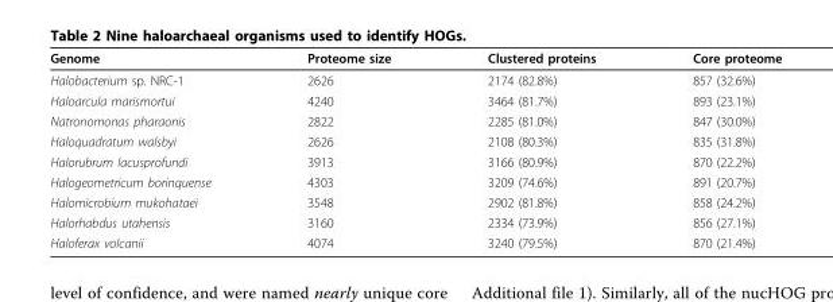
<table><thead><tr><td>Genome</td><td>Proteome size</td><td>Clustered proteins</td><td>Core proteome</td></tr></thead><tbody><tr><td>Halobacterium sp. NRC-1</td><td>2626</td><td>2174 (82.8%)</td><td>857 (32.6%)</td></tr><tr><td>Haloarcula marismortui</td><td>4240</td><td>3464 (81.7%)</td><td>893 (23.1%)</td></tr><tr><td>Natronomonas pharaonis</td><td>2822</td><td>2285 (81.0%)</td><td>847 (30.0%)</td></tr><tr><td>Haloquadratum walsbyi</td><td>2626</td><td>2108 (80.3%)</td><td>835 (31.8%)</td></tr><tr><td>Halorubrum lacusprofundi</td><td>3913</td><td>3166 (80.9%)</td><td>870 (22.2%)</td></tr><tr><td>Halogeometricum borinquense</td><td>4303</td><td>3209 (74.6%)</td><td>891 (20.7%)</td></tr><tr><td>Halomicrobium mukohataei</td><td>3548</td><td>2902 (81.8%)</td><td>858 (24.2%)</td></tr><tr><td>Halorhabdus utahensis</td><td>3160</td><td>2334 (73.9%)</td><td>856 (27.1%)</td></tr><tr><td>Haloferax volcanii</td><td>4074</td><td>3240 (79.5%)</td><td>870 (21.4%)</td></tr></tbody></table>